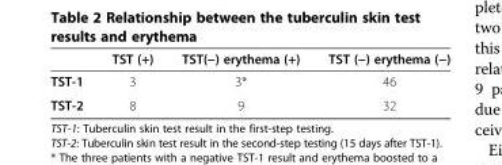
<table><thead><tr><td></td><td>TST (+)</td><td>TST(−) erythema (+)</td><td>TST (−) erythema (−)</td></tr></thead><tbody><tr><td>TST-1</td><td>3</td><td>3*</td><td>46</td></tr><tr><td>TST-2</td><td>8</td><td>9</td><td>32</td></tr></tbody></table>